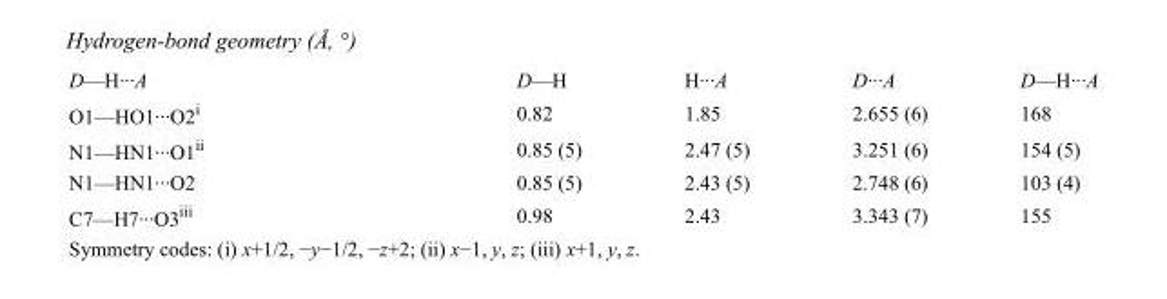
<table><tbody><tr><td>D—H···A</td><td>D—H</td><td>H···A</td><td>D···A</td><td>D—H···A</td></tr><tr><td>O1—HO1···O2<sup>i</sup></td><td>0.82</td><td>1.85</td><td>2.655 (6)</td><td>168</td></tr><tr><td>N1—HN1···O1<sup>ii</sup></td><td>0.85 (5)</td><td>2.47 (5)</td><td>3.251 (6)</td><td>154 (5)</td></tr><tr><td>N1—HN1···O2</td><td>0.85 (5)</td><td>2.43 (5)</td><td>2.748 (6)</td><td>103 (4)</td></tr><tr><td>C7—H7···O3<sup>iii</sup></td><td>0.98</td><td>2.43</td><td>3.343 (7)</td><td>155</td></tr></tbody></table>